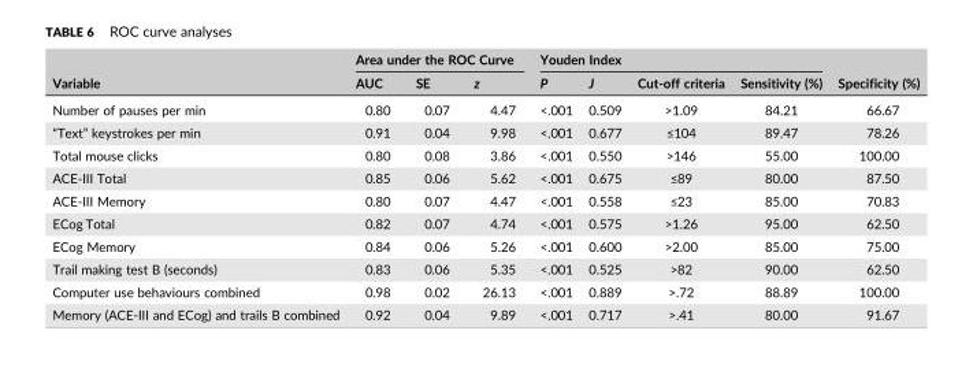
<table><thead><tr><td rowspan="2">Variable</td><td colspan="3">Area under the ROC Curve</td><td colspan="4">Youden Index</td><td rowspan="2">Specificity (%)</td></tr><tr><td>AUC</td><td>SE</td><td>z</td><td>P</td><td>J</td><td>Cut‐off criteria</td><td>Sensitivity (%)</td></tr></thead><tbody><tr><td>Number of pauses per min</td><td>0.80</td><td>0.07</td><td>4.47</td><td>&lt;.001</td><td>0.509</td><td>&gt;1.09</td><td>84.21</td><td>66.67</td></tr><tr><td>“Text” keystrokes per min</td><td>0.91</td><td>0.04</td><td>9.98</td><td>&lt;.001</td><td>0.677</td><td>≤104</td><td>89.47</td><td>78.26</td></tr><tr><td>Total mouse clicks</td><td>0.80</td><td>0.08</td><td>3.86</td><td>&lt;.001</td><td>0.550</td><td>&gt;146</td><td>55.00</td><td>100.00</td></tr><tr><td>ACE‐III Total</td><td>0.85</td><td>0.06</td><td>5.62</td><td>&lt;.001</td><td>0.675</td><td>≤89</td><td>80.00</td><td>87.50</td></tr><tr><td>ACE‐III Memory</td><td>0.80</td><td>0.07</td><td>4.47</td><td>&lt;.001</td><td>0.558</td><td>≤23</td><td>85.00</td><td>70.83</td></tr><tr><td>ECog Total</td><td>0.82</td><td>0.07</td><td>4.74</td><td>&lt;.001</td><td>0.575</td><td>&gt;1.26</td><td>95.00</td><td>62.50</td></tr><tr><td>ECog Memory</td><td>0.84</td><td>0.06</td><td>5.26</td><td>&lt;.001</td><td>0.600</td><td>&gt;2.00</td><td>85.00</td><td>75.00</td></tr><tr><td>Trail making test B (seconds)</td><td>0.83</td><td>0.06</td><td>5.35</td><td>&lt;.001</td><td>0.525</td><td>&gt;82</td><td>90.00</td><td>62.50</td></tr><tr><td>Computer use behaviours combined</td><td>0.98</td><td>0.02</td><td>26.13</td><td>&lt;.001</td><td>0.889</td><td>&gt;.72</td><td>88.89</td><td>100.00</td></tr><tr><td>Memory (ACE‐III and ECog) and trails B combined</td><td>0.92</td><td>0.04</td><td>9.89</td><td>&lt;.001</td><td>0.717</td><td>&gt;.41</td><td>80.00</td><td>91.67</td></tr></tbody></table>